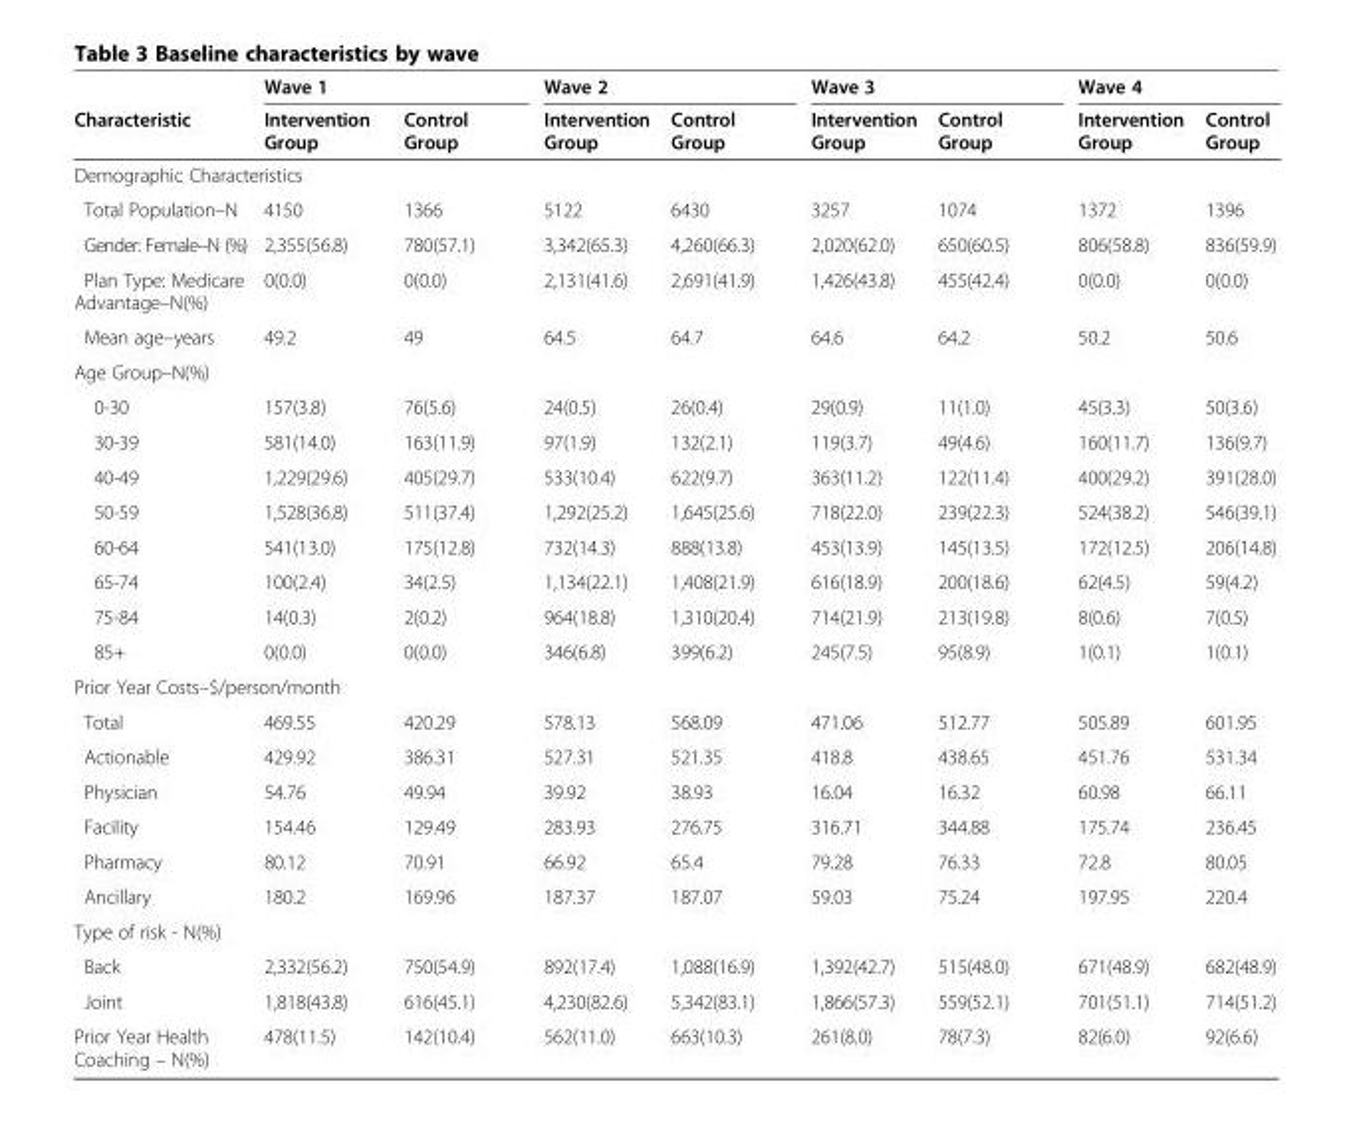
<table><thead><tr><td rowspan="2">Characteristic</td><td colspan="2">Wave 1</td><td colspan="2">Wave 2</td><td colspan="2">Wave 3</td><td colspan="2">Wave 4</td></tr><tr><td>Intervention Group</td><td>Control Group</td><td>Intervention Group</td><td>Control Group</td><td>Intervention Group</td><td>Control Group</td><td>Intervention Group</td><td>Control Group</td></tr></thead><tbody><tr><td colspan="9">Demographic Characteristics</td></tr><tr><td>Total Population–N</td><td>4150</td><td>1366</td><td>5122</td><td>6430</td><td>3257</td><td>1074</td><td>1372</td><td>1396</td></tr><tr><td>Gender: Female--N (%)</td><td>2,355(56.8)</td><td>780(57.1)</td><td>3,342(65.3)</td><td>4,260(66.3)</td><td>2,020(62.0)</td><td>650(60.5)</td><td>806(58.8)</td><td>836(59.9)</td></tr><tr><td>Plan Type: Medicare Advantage–N(%)</td><td>0(0.0)</td><td>0(0.0)</td><td>2,131(41.6)</td><td>2,691(41.9)</td><td>1,426(43.8)</td><td>455(42.4)</td><td>0(0.0)</td><td>0(0.0)</td></tr><tr><td>Mean age–years</td><td>49.2</td><td>49</td><td>64.5</td><td>64.7</td><td>64.6</td><td>64.2</td><td>50.2</td><td>50.6</td></tr><tr><td colspan="9">Age Group–N(%)</td></tr><tr><td>0-30</td><td>157(3.8)</td><td>76(5.6)</td><td>24(0.5)</td><td>26(0.4)</td><td>29(0.9)</td><td>11(1.0)</td><td>45(3.3)</td><td>50(3.6)</td></tr><tr><td>30-39</td><td>581(14.0)</td><td>163(11.9)</td><td>97(1.9)</td><td>132(2.1)</td><td>119(3.7)</td><td>49(4.6)</td><td>160(11.7)</td><td>136(9.7)</td></tr><tr><td>40-49</td><td>1,229(29.6)</td><td>405(29.7)</td><td>533(10.4)</td><td>622(9.7)</td><td>363(11.2)</td><td>122(11.4)</td><td>400(29.2)</td><td>391(28.0)</td></tr><tr><td>50-59</td><td>1,528(36.8)</td><td>511(37.4)</td><td>1,292(25.2)</td><td>1,645(25.6)</td><td>718(22.0)</td><td>239(22.3)</td><td>524(38.2)</td><td>546(39.1)</td></tr><tr><td>60-64</td><td>541(13.0)</td><td>175(12.8)</td><td>732(14.3)</td><td>888(13.8)</td><td>453(13.9)</td><td>145(13.5)</td><td>172(12.5)</td><td>206(14.8)</td></tr><tr><td>65-74</td><td>100(2.4)</td><td>34(2.5)</td><td>1,134(22.1)</td><td>1,408(21.9)</td><td>616(18.9)</td><td>200(18.6)</td><td>62(4.5)</td><td>59(4.2)</td></tr><tr><td>75-84</td><td>14(0.3)</td><td>2(0.2)</td><td>964(18.8)</td><td>1,310(20.4)</td><td>714(21.9)</td><td>213(19.8)</td><td>8(0.6)</td><td>7(0.5)</td></tr><tr><td>85+</td><td>0(0.0)</td><td>0(0.0)</td><td>346(6.8)</td><td>399(6.2)</td><td>245(7.5)</td><td>95(8.9)</td><td>1(0.1)</td><td>1(0.1)</td></tr><tr><td colspan="9">Prior Year Costs–$/person/month</td></tr><tr><td>Total</td><td>469.55</td><td>420.29</td><td>578.13</td><td>568.09</td><td>471.06</td><td>512.77</td><td>505.89</td><td>601.95</td></tr><tr><td>Actionable</td><td>429.92</td><td>386.31</td><td>527.31</td><td>521.35</td><td>418.8</td><td>438.65</td><td>451.76</td><td>531.34</td></tr><tr><td>Physician</td><td>54.76</td><td>49.94</td><td>39.92</td><td>38.93</td><td>16.04</td><td>16.32</td><td>60.98</td><td>66.11</td></tr><tr><td>Facility</td><td>154.46</td><td>129.49</td><td>283.93</td><td>276.75</td><td>316.71</td><td>344.88</td><td>175.74</td><td>236.45</td></tr><tr><td>Pharmacy</td><td>80.12</td><td>70.91</td><td>66.92</td><td>65.4</td><td>79.28</td><td>76.33</td><td>72.8</td><td>80.05</td></tr><tr><td>Ancillary</td><td>180.2</td><td>169.96</td><td>187.37</td><td>187.07</td><td>59.03</td><td>75.24</td><td>197.95</td><td>220.4</td></tr><tr><td colspan="9">Type of risk - N(%)</td></tr><tr><td>Back</td><td>2,332(56.2)</td><td>750(54.9)</td><td>892(17.4)</td><td>1,088(16.9)</td><td>1,392(42.7)</td><td>515(48.0)</td><td>671(48.9)</td><td>682(48.9)</td></tr><tr><td>Joint</td><td>1,818(43.8)</td><td>616(45.1)</td><td>4,230(82.6)</td><td>5,342(83.1)</td><td>1,866(57.3)</td><td>559(52.1)</td><td>701(51.1)</td><td>714(51.2)</td></tr><tr><td>Prior Year Health Coaching – N(%)</td><td>478(11.5)</td><td>142(10.4)</td><td>562(11.0)</td><td>663(10.3)</td><td>261(8.0)</td><td>78(7.3)</td><td>82(6.0)</td><td>92(6.6)</td></tr></tbody></table>